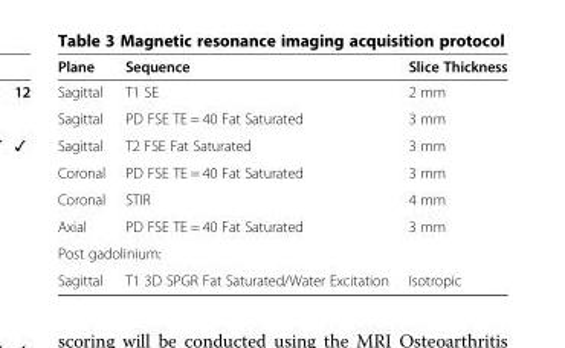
<table><thead><tr><td>Plane</td><td>Sequence</td><td>Slice Thickness</td></tr></thead><tbody><tr><td>Sagittal</td><td>T1 SE</td><td>2 mm</td></tr><tr><td>Sagittal</td><td>PD FSE TE = 40 Fat Saturated</td><td>3 mm</td></tr><tr><td>Sagittal</td><td>T2 FSE Fat Saturated</td><td>3 mm</td></tr><tr><td>Coronal</td><td>PD FSE TE = 40 Fat Saturated</td><td>3 mm</td></tr><tr><td>Coronal</td><td>STIR</td><td>4 mm</td></tr><tr><td>Axial</td><td>PD FSE TE = 40 Fat Saturated</td><td>3 mm</td></tr><tr><td colspan="3">Post gadolinium:</td></tr><tr><td>Sagittal</td><td>T1 3D SPGR Fat Saturated/Water Excitation</td><td>Isotropic</td></tr></tbody></table>